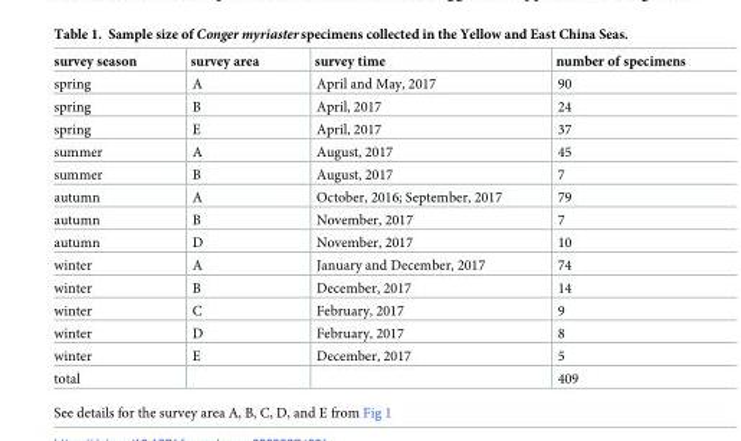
<table><thead><tr><td>survey season</td><td>survey area</td><td>survey time</td><td>number of specimens</td></tr></thead><tbody><tr><td>spring</td><td>A</td><td>April and May, 2017</td><td>90</td></tr><tr><td>spring</td><td>B</td><td>April, 2017</td><td>24</td></tr><tr><td>spring</td><td>E</td><td>April, 2017</td><td>37</td></tr><tr><td>summer</td><td>A</td><td>August, 2017</td><td>45</td></tr><tr><td>summer</td><td>B</td><td>August, 2017</td><td>7</td></tr><tr><td>autumn</td><td>A</td><td>October, 2016; September, 2017</td><td>79</td></tr><tr><td>autumn</td><td>B</td><td>November, 2017</td><td>7</td></tr><tr><td>autumn</td><td>D</td><td>November, 2017</td><td>10</td></tr><tr><td>winter</td><td>A</td><td>January and December, 2017</td><td>74</td></tr><tr><td>winter</td><td>B</td><td>December, 2017</td><td>14</td></tr><tr><td>winter</td><td>C</td><td>February, 2017</td><td>9</td></tr><tr><td>winter</td><td>D</td><td>February, 2017</td><td>8</td></tr><tr><td>winter</td><td>E</td><td>December, 2017</td><td>5</td></tr><tr><td>total</td><td></td><td></td><td>409</td></tr></tbody></table>